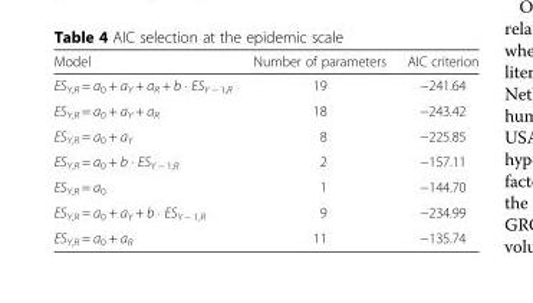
<table><thead><tr><td>Model</td><td>Number of parameters</td><td>AIC criterion</td></tr></thead><tbody><tr><td>ES<sub>Y,R</sub> = a<sub>0</sub> + a<sub>Y</sub> + a<sub>R</sub> + b ⋅ ES<sub>Y − 1,R</sub></td><td>19</td><td>−241.64</td></tr><tr><td>ES<sub>Y,R</sub> = a<sub>0</sub> + a<sub>Y</sub> + a<sub>R</sub></td><td>18</td><td>−243.42</td></tr><tr><td>ES<sub>Y,R</sub> = a<sub>0</sub> + a<sub>Y</sub></td><td>8</td><td>−225.85</td></tr><tr><td>ES<sub>Y,R</sub> = a<sub>0</sub> + b ⋅ ES<sub>Y − 1,R</sub></td><td>2</td><td>−157.11</td></tr><tr><td>ES<sub>Y,R</sub> = a<sub>0</sub></td><td>1</td><td>−144.70</td></tr><tr><td>ES<sub>Y,R</sub> = a<sub>0</sub> + a<sub>Y</sub> + b ⋅ ES<sub>Y − 1,R</sub></td><td>9</td><td>−234.99</td></tr><tr><td>ES<sub>Y,R</sub> = a<sub>0</sub> + a<sub>R</sub></td><td>11</td><td>−135.74</td></tr></tbody></table>